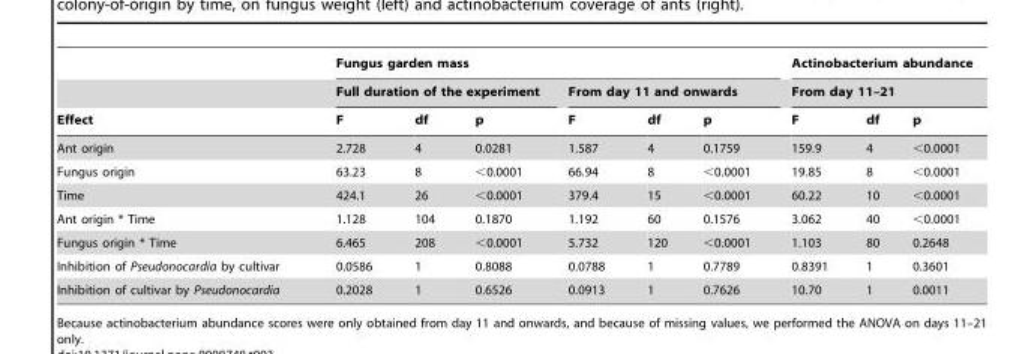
<table><thead><tr><td rowspan="3">Effect</td><td colspan="6">Fungus garden mass</td><td rowspan="2" colspan="3">Actinobacterium abundance From day 11–21</td></tr><tr><td colspan="3">Full duration of the experiment</td><td colspan="3">From day 11 and onwards</td></tr><tr><td>F</td><td>df</td><td>p</td><td>F</td><td>df</td><td>p</td><td>F</td><td>df</td><td>p</td></tr></thead><tbody><tr><td>Ant origin</td><td>2.728</td><td>4</td><td>0.0281</td><td>1.587</td><td>4</td><td>0.1759</td><td>159.9</td><td>4</td><td>&lt;0.0001</td></tr><tr><td>Fungus origin</td><td>63.23</td><td>8</td><td>&lt;0.0001</td><td>66.94</td><td>8</td><td>&lt;0.0001</td><td>19.85</td><td>8</td><td>&lt;0.0001</td></tr><tr><td>Time</td><td>424.1</td><td>26</td><td>&lt;0.0001</td><td>379.4</td><td>15</td><td>&lt;0.0001</td><td>60.22</td><td>10</td><td>&lt;0.0001</td></tr><tr><td>Ant origin * Time</td><td>1.128</td><td>104</td><td>0.1870</td><td>1.192</td><td>60</td><td>0.1576</td><td>3.062</td><td>40</td><td>&lt;0.0001</td></tr><tr><td>Fungus origin * Time</td><td>6.465</td><td>208</td><td>&lt;0.0001</td><td>5.732</td><td>120</td><td>&lt;0.0001</td><td>1.103</td><td>80</td><td>0.2648</td></tr><tr><td>Inhibition of Pseudonocardia by cultivar</td><td>0.0586</td><td>1</td><td>0.8088</td><td>0.0788</td><td>1</td><td>0.7789</td><td>0.8391</td><td>1</td><td>0.3601</td></tr><tr><td>Inhibition of cultivar by Pseudonocardia</td><td>0.2028</td><td>1</td><td>0.6526</td><td>0.0913</td><td>1</td><td>0.7626</td><td>10.70</td><td>1</td><td>0.0011</td></tr></tbody></table>